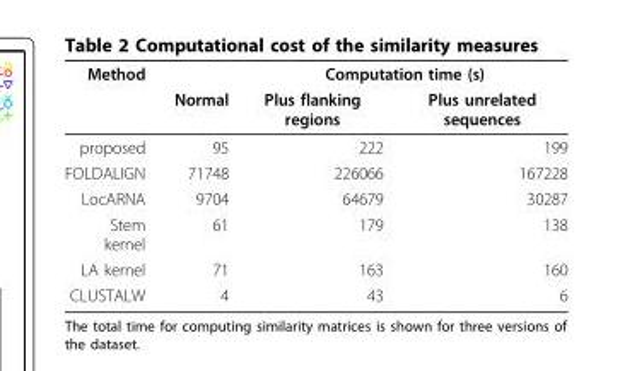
<table><thead><tr><td rowspan="2">Method</td><td rowspan="2">Normal</td><td colspan="2">Computation time (s)</td></tr><tr><td>Plus flanking regions</td><td>Plus unrelated sequences</td></tr></thead><tbody><tr><td>proposed</td><td>95</td><td>222</td><td>199</td></tr><tr><td>FOLDALIGN</td><td>71748</td><td>226066</td><td>167228</td></tr><tr><td>LocARNA</td><td>9704</td><td>64679</td><td>30287</td></tr><tr><td>Stem kernel</td><td>61</td><td>179</td><td>138</td></tr><tr><td>LA kernel</td><td>71</td><td>163</td><td>160</td></tr><tr><td>CLUSTALW</td><td>4</td><td>43</td><td>6</td></tr></tbody></table>